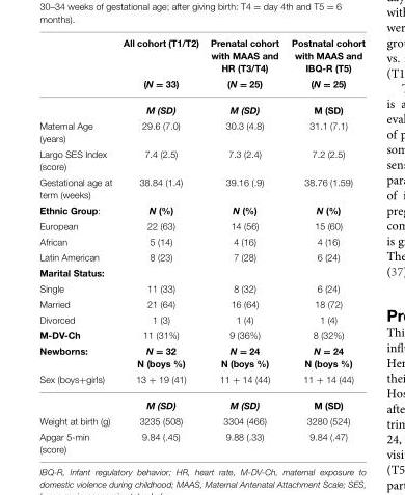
<table><thead><tr><td rowspan="2"></td><td rowspan="2">All cohort (T1/T2) (N = 33)</td><td rowspan="2">Prenatal cohort with MAAS and HR (T3/T4) (N = 25)</td><td rowspan="2">Postnatal cohort with MAAS and IBQ-R (T5) (N = 25)</td></tr><tr></tr></thead><tbody><tr><td></td><td>M (SD)</td><td>M (SD)</td><td>M (SD)</td></tr><tr><td>Maternal Age (years)</td><td>29.6 (7.0)</td><td>30.3 (4.8)</td><td>31.1 (7.1)</td></tr><tr><td>Largo SES Index (score)</td><td>7.4 (2.5)</td><td>7.3 (2.4)</td><td>7.2 (2.5)</td></tr><tr><td>Gestational age at term (weeks)</td><td>38.84 (1.4)</td><td>39.16 (.9)</td><td>38.76 (1.59)</td></tr><tr><td>Ethnic Group:</td><td>N (%)</td><td>N (%)</td><td>N (%)</td></tr><tr><td>European</td><td>22 (63)</td><td>14 (56)</td><td>15 (60)</td></tr><tr><td>African</td><td>5 (14)</td><td>4 (16)</td><td>4 (16)</td></tr><tr><td>Latin American</td><td>8 (23)</td><td>7 (28)</td><td>6 (24)</td></tr><tr><td colspan="4">Marital Status:</td></tr><tr><td>Single</td><td>11 (33)</td><td>8 (32)</td><td>6 (24)</td></tr><tr><td>Married</td><td>21 (64)</td><td>16 (64)</td><td>18 (72)</td></tr><tr><td>Divorced</td><td>1 (3)</td><td>1 (4)</td><td>1 (4)</td></tr><tr><td>M-DV-Ch</td><td>11 (31%)</td><td>9 (36%)</td><td>8 (32%)</td></tr><tr><td>Newborns:</td><td>N = 32 N (boys %)</td><td>N = 24 N (boys %)</td><td>N = 24 N (boys %)</td></tr><tr><td rowspan="2">Sex (boys+girls)</td><td>13 + 19 (41)</td><td>11 + 14 (44)</td><td>11 + 14 (44)</td></tr><tr><td>M (SD)</td><td>M (SD)</td><td>M (SD)</td></tr><tr><td>Weight at birth (g)</td><td>3235 (508)</td><td>3304 (466)</td><td>3280 (524)</td></tr><tr><td>Apgar 5-min (score)</td><td>9.84 (.45)</td><td>9.88 (.33)</td><td>9.84 (.47)</td></tr></tbody></table>